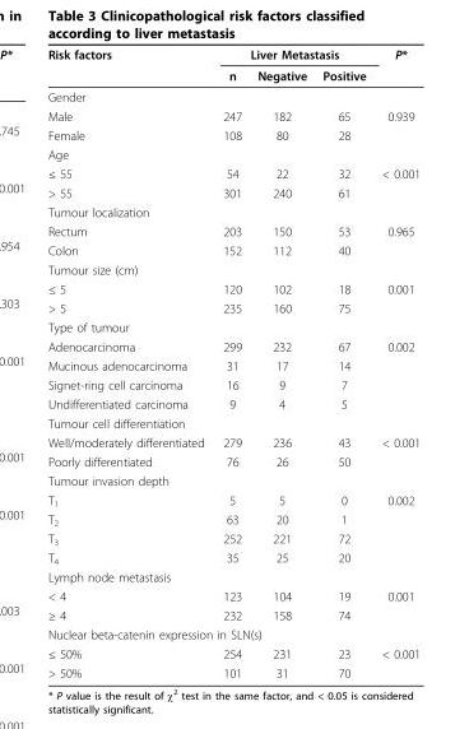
<table><thead><tr><td rowspan="2">Risk factors</td><td colspan="3">Liver Metastasis</td><td rowspan="2">P*</td></tr><tr><td>n</td><td>Negative</td><td>Positive</td></tr></thead><tbody><tr><td colspan="5">Gender</td></tr><tr><td>Male</td><td>247</td><td>182</td><td>65</td><td>0.939</td></tr><tr><td>Female</td><td>108</td><td>80</td><td>28</td><td></td></tr><tr><td colspan="5">Age</td></tr><tr><td>≤ 55</td><td>54</td><td>22</td><td>32</td><td>&lt; 0.001</td></tr><tr><td>&gt; 55</td><td>301</td><td>240</td><td>61</td><td></td></tr><tr><td colspan="5">Tumour localization</td></tr><tr><td>Rectum</td><td>203</td><td>150</td><td>53</td><td>0.965</td></tr><tr><td>Colon</td><td>152</td><td>112</td><td>40</td><td></td></tr><tr><td colspan="5">Tumour size (cm)</td></tr><tr><td>≤ 5</td><td>120</td><td>102</td><td>18</td><td>0.001</td></tr><tr><td>&gt; 5</td><td>235</td><td>160</td><td>75</td><td></td></tr><tr><td colspan="5">Type of tumour</td></tr><tr><td>Adenocarcinoma</td><td>299</td><td>232</td><td>67</td><td>0.002</td></tr><tr><td>Mucinous adenocarcinoma</td><td>31</td><td>17</td><td>14</td><td></td></tr><tr><td>Signet-ring cell carcinoma</td><td>16</td><td>9</td><td>7</td><td></td></tr><tr><td>Undifferentiated carcinoma</td><td>9</td><td>4</td><td>5</td><td></td></tr><tr><td colspan="5">Tumour cell differentiation</td></tr><tr><td>Well/moderately differentiated</td><td>279</td><td>236</td><td>43</td><td>&lt; 0.001</td></tr><tr><td>Poorly differentiated</td><td>76</td><td>26</td><td>50</td><td></td></tr><tr><td colspan="5">Tumour invasion depth</td></tr><tr><td>T<sub>1</sub></td><td>5</td><td>5</td><td>0</td><td>0.002</td></tr><tr><td>T<sub>2</sub></td><td>63</td><td>20</td><td>1</td><td></td></tr><tr><td>T<sub>3</sub></td><td>252</td><td>221</td><td>72</td><td></td></tr><tr><td>T<sub>4</sub></td><td>35</td><td>25</td><td>20</td><td></td></tr><tr><td colspan="5">Lymph node metastasis</td></tr><tr><td>&lt; 4</td><td>123</td><td>104</td><td>19</td><td>0.001</td></tr><tr><td>≥ 4</td><td>232</td><td>158</td><td>74</td><td></td></tr><tr><td colspan="5">Nuclear beta-catenin expression in SLN(s)</td></tr><tr><td>≤ 50%</td><td>254</td><td>231</td><td>23</td><td>&lt; 0.001</td></tr><tr><td>&gt; 50%</td><td>101</td><td>31</td><td>70</td><td></td></tr></tbody></table>